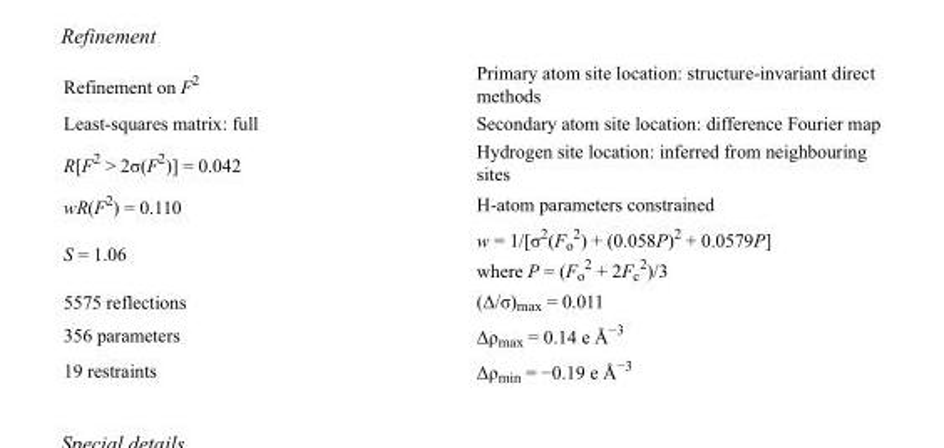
<table><tbody><tr><td>Refinement on F<sup>2</sup></td><td>Primary atom site location: structure-invariant direct methods</td></tr><tr><td>Least-squares matrix: full</td><td>Secondary atom site location: difference Fourier map</td></tr><tr><td>R[F<sup>2</sup> &gt; 2σ(F<sup>2</sup>)] = 0.042</td><td>Hydrogen site location: inferred from neighbouring sites</td></tr><tr><td>wR(F<sup>2</sup>) = 0.110</td><td>H-atom parameters constrained</td></tr><tr><td>S = 1.06</td><td>w = 1/[σ<sup>2</sup>(F<sub>o</sub> <sup>2</sup>) + (0.058P)<sup>2</sup> + 0.0579P] where P = (F<sub>o</sub> <sup>2</sup> + 2F<sub>c</sub> <sup>2</sup>)/3</td></tr><tr><td>5575 reflections</td><td>(Δ/σ)<sub>max</sub> = 0.011</td></tr><tr><td>356 parameters</td><td>Δρ<sub>max</sub> = 0.14 e Å<sup>−3</sup></td></tr><tr><td>19 restraints</td><td>Δρ<sub>min</sub> = −0.19 e Å<sup>−3</sup></td></tr></tbody></table>